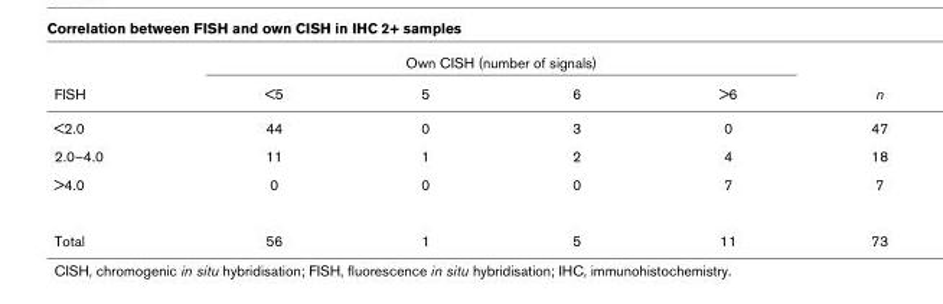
<table><thead><tr><td rowspan="2">FISH</td><td colspan="4">Own CISH (number of signals)</td><td rowspan="2">n</td></tr><tr><td>&lt;5</td><td>5</td><td>6</td><td>&gt;6</td></tr></thead><tbody><tr><td>&lt;2.0</td><td>44</td><td>0</td><td>3</td><td>0</td><td>47</td></tr><tr><td>2.0–4.0</td><td>11</td><td>1</td><td>2</td><td>4</td><td>18</td></tr><tr><td>&gt;4.0</td><td>0</td><td>0</td><td>0</td><td>7</td><td>7</td></tr><tr><td>Total</td><td>56</td><td>1</td><td>5</td><td>11</td><td>73</td></tr></tbody></table>